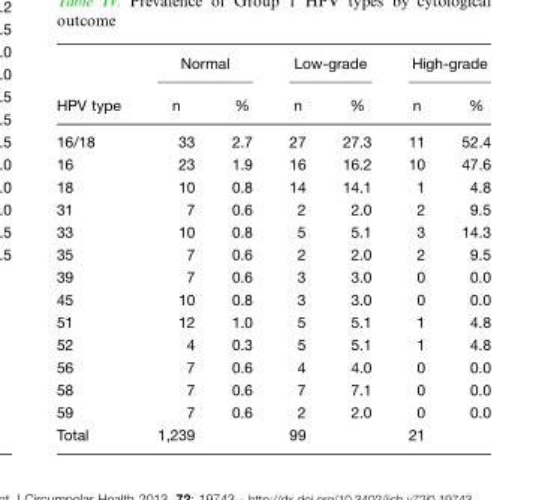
<table><thead><tr><td rowspan="2">HPV type</td><td colspan="2">Normal</td><td colspan="2">Low-grade</td><td colspan="2">High-grade</td></tr><tr><td>n</td><td>%</td><td>n</td><td>%</td><td>n</td><td>%</td></tr></thead><tbody><tr><td>16/18</td><td>33</td><td>2.7</td><td>27</td><td>27.3</td><td>11</td><td>52.4</td></tr><tr><td>16</td><td>23</td><td>1.9</td><td>16</td><td>16.2</td><td>10</td><td>47.6</td></tr><tr><td>18</td><td>10</td><td>0.8</td><td>14</td><td>14.1</td><td>1</td><td>4.8</td></tr><tr><td>31</td><td>7</td><td>0.6</td><td>2</td><td>2.0</td><td>2</td><td>9.5</td></tr><tr><td>33</td><td>10</td><td>0.8</td><td>5</td><td>5.1</td><td>3</td><td>14.3</td></tr><tr><td>35</td><td>7</td><td>0.6</td><td>2</td><td>2.0</td><td>2</td><td>9.5</td></tr><tr><td>39</td><td>7</td><td>0.6</td><td>3</td><td>3.0</td><td>0</td><td>0.0</td></tr><tr><td>45</td><td>10</td><td>0.8</td><td>3</td><td>3.0</td><td>0</td><td>0.0</td></tr><tr><td>51</td><td>12</td><td>1.0</td><td>5</td><td>5.1</td><td>1</td><td>4.8</td></tr><tr><td>52</td><td>4</td><td>0.3</td><td>5</td><td>5.1</td><td>1</td><td>4.8</td></tr><tr><td>56</td><td>7</td><td>0.6</td><td>4</td><td>4.0</td><td>0</td><td>0.0</td></tr><tr><td>58</td><td>7</td><td>0.6</td><td>7</td><td>7.1</td><td>0</td><td>0.0</td></tr><tr><td>59</td><td>7</td><td>0.6</td><td>2</td><td>2.0</td><td>0</td><td>0.0</td></tr><tr><td>Total</td><td>1,239</td><td></td><td>99</td><td></td><td>21</td><td></td></tr></tbody></table>